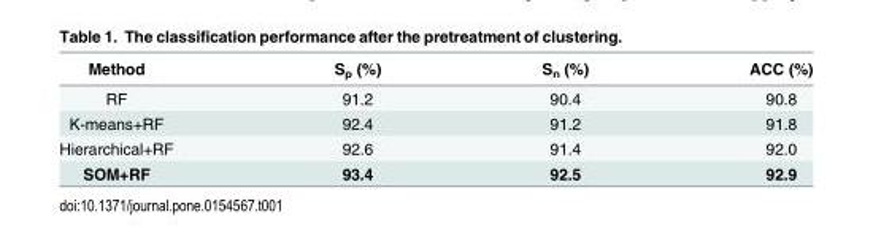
<table><thead><tr><td>Method</td><td>S<sub>p</sub> (%)</td><td>S<sub>n</sub> (%)</td><td>ACC (%)</td></tr></thead><tbody><tr><td>RF</td><td>91.2</td><td>90.4</td><td>90.8</td></tr><tr><td>K-means+RF</td><td>92.4</td><td>91.2</td><td>91.8</td></tr><tr><td>Hierarchical+RF</td><td>92.6</td><td>91.4</td><td>92.0</td></tr><tr><td>SOM+RF</td><td>93.4</td><td>92.5</td><td>92.9</td></tr></tbody></table>